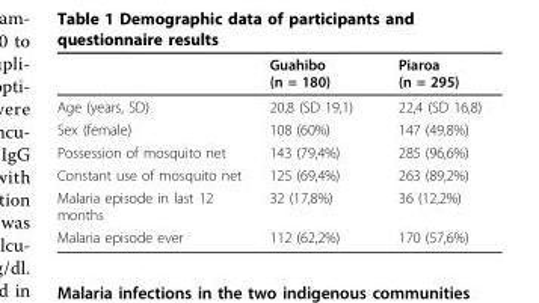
<table><thead><tr><td></td><td>Guahibo (n = 180)</td><td>Piaroa (n = 295)</td></tr></thead><tbody><tr><td>Age (years, SD)</td><td>20,8 (SD 19,1)</td><td>22,4 (SD 16,8)</td></tr><tr><td>Sex (female)</td><td>108 (60%)</td><td>147 (49,8%)</td></tr><tr><td>Possession of mosquito net</td><td>143 (79,4%)</td><td>285 (96,6%)</td></tr><tr><td>Constant use of mosquito net</td><td>125 (69,4%)</td><td>263 (89,2%)</td></tr><tr><td>Malaria episode in last 12 months</td><td>32 (17,8%)</td><td>36 (12,2%)</td></tr><tr><td>Malaria episode ever</td><td>112 (62,2%)</td><td>170 (57,6%)</td></tr></tbody></table>